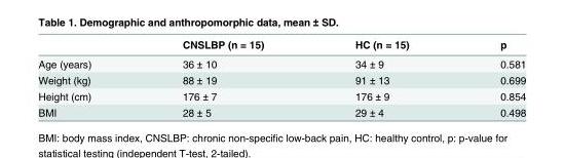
<table><thead><tr><td></td><td>CNSLBP (n = 15)</td><td>HC (n = 15)</td><td>p</td></tr></thead><tbody><tr><td>Age (years)</td><td>36 ± 10</td><td>34 ± 9</td><td>0.581</td></tr><tr><td>Weight (kg)</td><td>88 ± 19</td><td>91 ± 13</td><td>0.699</td></tr><tr><td>Height (cm)</td><td>176 ± 7</td><td>176 ± 9</td><td>0.854</td></tr><tr><td>BMI</td><td>28 ± 5</td><td>29 ± 4</td><td>0.498</td></tr></tbody></table>